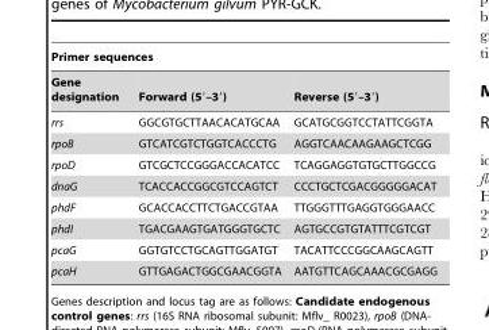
<table><thead><tr><td colspan="3">Primer sequences</td></tr><tr><td>Gene designation</td><td>Forward (5′–3′)</td><td>Reverse (5′–3′)</td></tr></thead><tbody><tr><td>rrs</td><td>GGCGTGCTTAACACATGCAA</td><td>GCATGCGGTCCTATTCGGTA</td></tr><tr><td>rpoB</td><td>GTCATCGTCTGGTCACCCTG</td><td>AGGTCAACAAGAAGCTCGG</td></tr><tr><td>rpoD</td><td>GTCGCTCCGGGACCACATCC</td><td>TCAGGAGGTGTGCTTGGCCG</td></tr><tr><td>dnaG</td><td>TCACCACCGGCGTCCAGTCT</td><td>CCCTGCTCGACGGGGGACAT</td></tr><tr><td>phdF</td><td>GCACCACCTTCTGACCGTAA</td><td>TTGGGTTTGAGGTGGGAACC</td></tr><tr><td>phdI</td><td>TGACGAAGTGATGGGTGCTC</td><td>AGTGCCGTGTATTTCGTCGT</td></tr><tr><td>pcaG</td><td>GGTGTCCTGCAGTTGGATGT</td><td>TACATTCCCGGCAAGCAGTT</td></tr><tr><td>pcaH</td><td>GTTGAGACTGGCGAACGGTA</td><td>AATGTTCAGCAAACGCGAGG</td></tr></tbody></table>